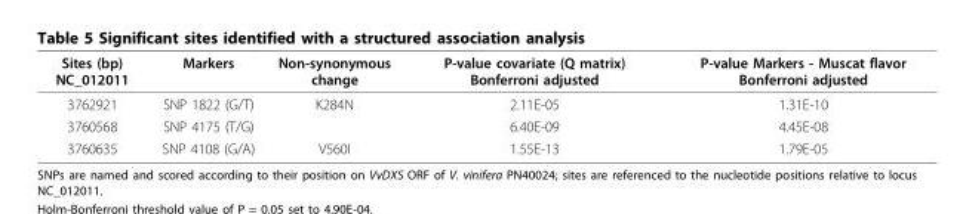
<table><thead><tr><td>Sites (bp) NC_012011</td><td>Markers</td><td>Non-synonymous change</td><td>P-value covariate (Q matrix) Bonferroni adjusted</td><td>P-value Markers - Muscat flavor Bonferroni adjusted</td></tr></thead><tbody><tr><td>3762921</td><td>SNP 1822 (G/T)</td><td>K284N</td><td>2.11E-05</td><td>1.31E-10</td></tr><tr><td>3760568</td><td>SNP 4175 (T/G)</td><td></td><td>6.40E-09</td><td>4.45E-08</td></tr><tr><td>3760635</td><td>SNP 4108 (G/A)</td><td>V560I</td><td>1.55E-13</td><td>1.79E-05</td></tr></tbody></table>